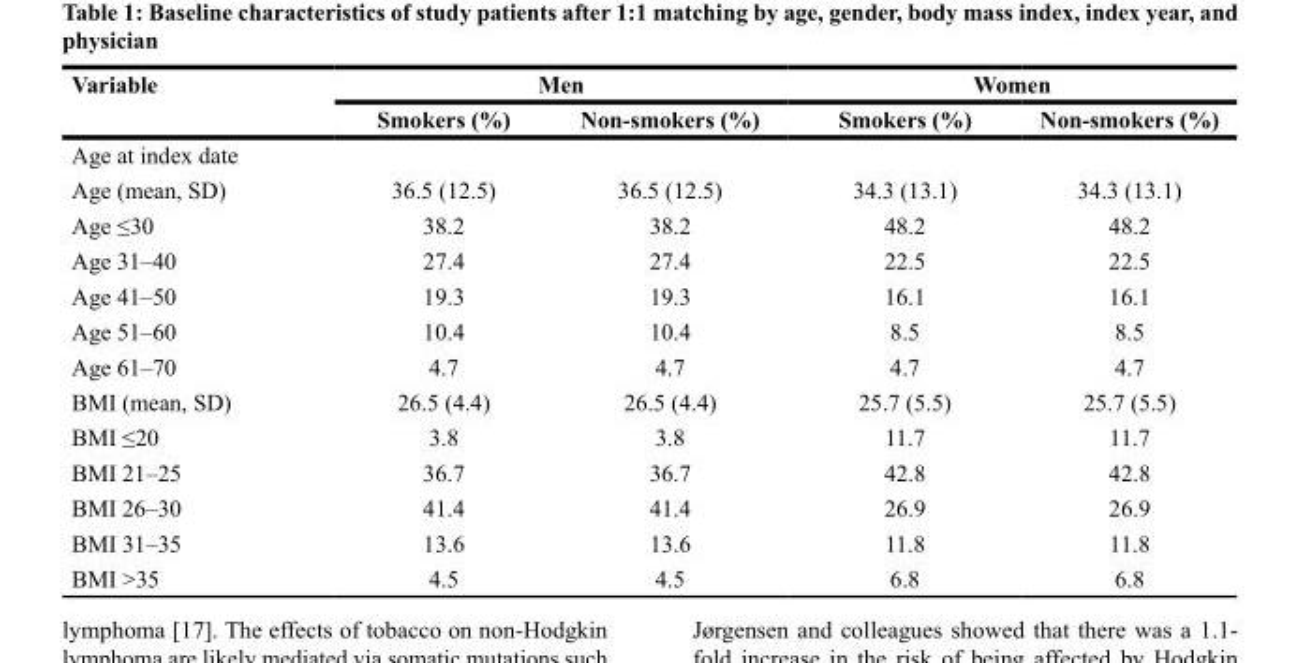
<table><thead><tr><td rowspan="2">Variable</td><td colspan="2">Men</td><td colspan="2">Women</td></tr><tr><td>Smokers (%)</td><td>Non-smokers (%)</td><td>Smokers (%)</td><td>Non-smokers (%)</td></tr></thead><tbody><tr><td colspan="5">Age at index date</td></tr><tr><td>Age (mean, SD)</td><td>36.5 (12.5)</td><td>36.5 (12.5)</td><td>34.3 (13.1)</td><td>34.3 (13.1)</td></tr><tr><td>Age ≤30</td><td>38.2</td><td>38.2</td><td>48.2</td><td>48.2</td></tr><tr><td>Age 31–40</td><td>27.4</td><td>27.4</td><td>22.5</td><td>22.5</td></tr><tr><td>Age 41–50</td><td>19.3</td><td>19.3</td><td>16.1</td><td>16.1</td></tr><tr><td>Age 51–60</td><td>10.4</td><td>10.4</td><td>8.5</td><td>8.5</td></tr><tr><td>Age 61–70</td><td>4.7</td><td>4.7</td><td>4.7</td><td>4.7</td></tr><tr><td>BMI (mean, SD)</td><td>26.5 (4.4)</td><td>26.5 (4.4)</td><td>25.7 (5.5)</td><td>25.7 (5.5)</td></tr><tr><td>BMI ≤20</td><td>3.8</td><td>3.8</td><td>11.7</td><td>11.7</td></tr><tr><td>BMI 21–25</td><td>36.7</td><td>36.7</td><td>42.8</td><td>42.8</td></tr><tr><td>BMI 26–30</td><td>41.4</td><td>41.4</td><td>26.9</td><td>26.9</td></tr><tr><td>BMI 31–35</td><td>13.6</td><td>13.6</td><td>11.8</td><td>11.8</td></tr><tr><td>BMI &gt;35</td><td>4.5</td><td>4.5</td><td>6.8</td><td>6.8</td></tr></tbody></table>